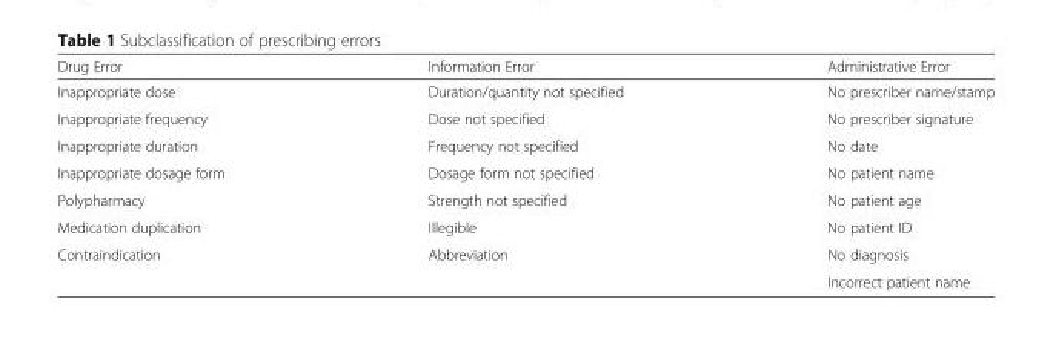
<table><thead><tr><td>Drug Error</td><td>Information Error</td><td>Administrative Error</td></tr></thead><tbody><tr><td>Inappropriate dose</td><td>Duration/quantity not specified</td><td>No prescriber name/stamp</td></tr><tr><td>Inappropriate frequency</td><td>Dose not specified</td><td>No prescriber signature</td></tr><tr><td>Inappropriate duration</td><td>Frequency not specified</td><td>No date</td></tr><tr><td>Inappropriate dosage form</td><td>Dosage form not specified</td><td>No patient name</td></tr><tr><td>Polypharmacy</td><td>Strength not specified</td><td>No patient age</td></tr><tr><td>Medication duplication</td><td>Illegible</td><td>No patient ID</td></tr><tr><td rowspan="2">Contraindication</td><td>Abbreviation</td><td>No diagnosis</td></tr><tr><td></td><td>Incorrect patient name</td></tr></tbody></table>